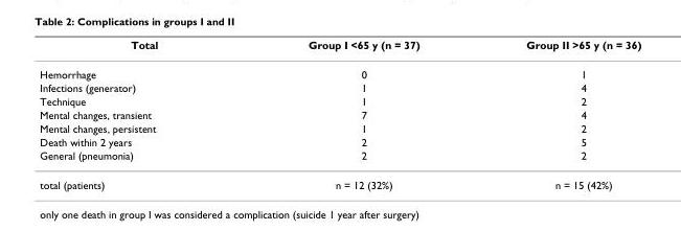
<table><thead><tr><td>Total</td><td>Group I &lt;65 y (n = 37)</td><td>Group II &gt;65 y (n = 36)</td></tr></thead><tbody><tr><td>Hemorrhage</td><td>0</td><td>1</td></tr><tr><td>Infections (generator)</td><td>1</td><td>4</td></tr><tr><td>Technique</td><td>1</td><td>2</td></tr><tr><td>Mental changes, transient</td><td>7</td><td>4</td></tr><tr><td>Mental changes, persistent</td><td>1</td><td>2</td></tr><tr><td>Death within 2 years</td><td>2</td><td>5</td></tr><tr><td>General (pneumonia)</td><td>2</td><td>2</td></tr><tr><td>total (patients)</td><td>n = 12 (32%)</td><td>n = 15 (42%)</td></tr></tbody></table>